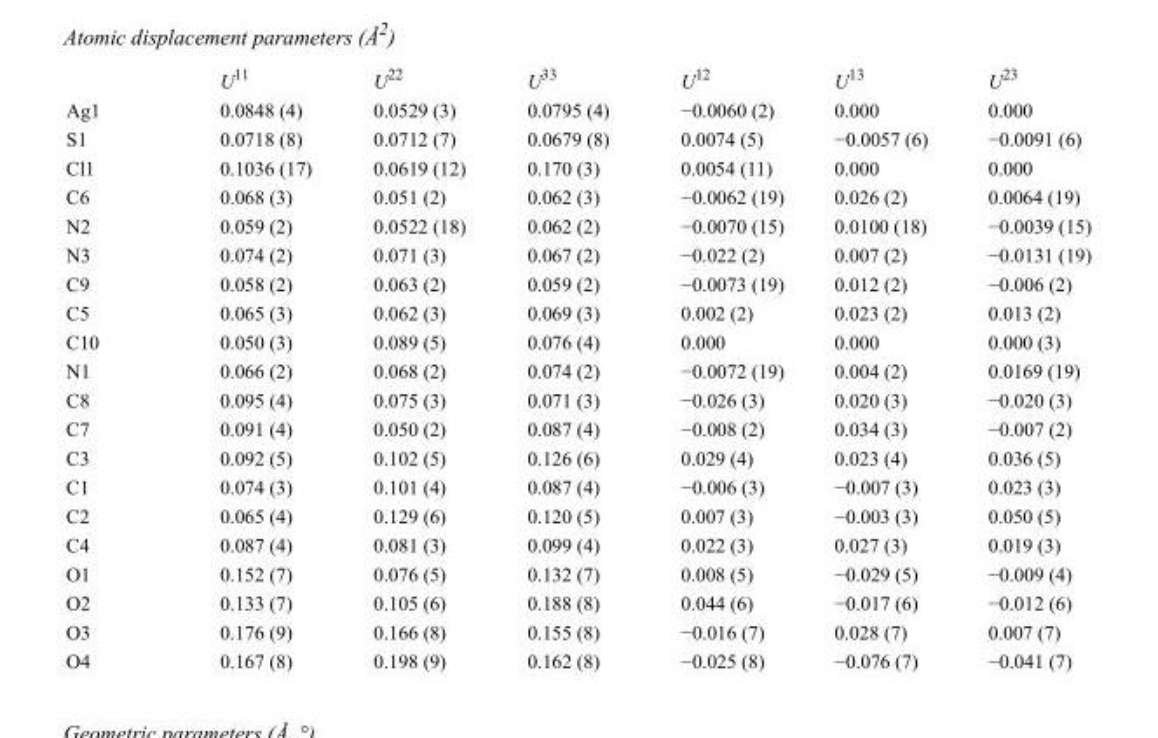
<table><thead><tr><td></td><td>U<sup>11</sup></td><td>U<sup>22</sup></td><td>U<sup>33</sup></td><td>U<sup>12</sup></td><td>U<sup>13</sup></td><td>U<sup>23</sup></td></tr></thead><tbody><tr><td>Ag1</td><td>0.0848 (4)</td><td>0.0529 (3)</td><td>0.0795 (4)</td><td>−0.0060 (2)</td><td>0.000</td><td>0.000</td></tr><tr><td>S1</td><td>0.0718 (8)</td><td>0.0712 (7)</td><td>0.0679 (8)</td><td>0.0074 (5)</td><td>−0.0057 (6)</td><td>−0.0091 (6)</td></tr><tr><td>Cl1</td><td>0.1036 (17)</td><td>0.0619 (12)</td><td>0.170 (3)</td><td>0.0054 (11)</td><td>0.000</td><td>0.000</td></tr><tr><td>C6</td><td>0.068 (3)</td><td>0.051 (2)</td><td>0.062 (3)</td><td>−0.0062 (19)</td><td>0.026 (2)</td><td>0.0064 (19)</td></tr><tr><td>N2</td><td>0.059 (2)</td><td>0.0522 (18)</td><td>0.062 (2)</td><td>−0.0070 (15)</td><td>0.0100 (18)</td><td>−0.0039 (15)</td></tr><tr><td>N3</td><td>0.074 (2)</td><td>0.071 (3)</td><td>0.067 (2)</td><td>−0.022 (2)</td><td>0.007 (2)</td><td>−0.0131 (19)</td></tr><tr><td>C9</td><td>0.058 (2)</td><td>0.063 (2)</td><td>0.059 (2)</td><td>−0.0073 (19)</td><td>0.012 (2)</td><td>−0.006 (2)</td></tr><tr><td>C5</td><td>0.065 (3)</td><td>0.062 (3)</td><td>0.069 (3)</td><td>0.002 (2)</td><td>0.023 (2)</td><td>0.013 (2)</td></tr><tr><td>C10</td><td>0.050 (3)</td><td>0.089 (5)</td><td>0.076 (4)</td><td>0.000</td><td>0.000</td><td>0.000 (3)</td></tr><tr><td>N1</td><td>0.066 (2)</td><td>0.068 (2)</td><td>0.074 (2)</td><td>−0.0072 (19)</td><td>0.004 (2)</td><td>0.0169 (19)</td></tr><tr><td>C8</td><td>0.095 (4)</td><td>0.075 (3)</td><td>0.071 (3)</td><td>−0.026 (3)</td><td>0.020 (3)</td><td>−0.020 (3)</td></tr><tr><td>C7</td><td>0.091 (4)</td><td>0.050 (2)</td><td>0.087 (4)</td><td>−0.008 (2)</td><td>0.034 (3)</td><td>−0.007 (2)</td></tr><tr><td>C3</td><td>0.092 (5)</td><td>0.102 (5)</td><td>0.126 (6)</td><td>0.029 (4)</td><td>0.023 (4)</td><td>0.036 (5)</td></tr><tr><td>C1</td><td>0.074 (3)</td><td>0.101 (4)</td><td>0.087 (4)</td><td>−0.006 (3)</td><td>−0.007 (3)</td><td>0.023 (3)</td></tr><tr><td>C2</td><td>0.065 (4)</td><td>0.129 (6)</td><td>0.120 (5)</td><td>0.007 (3)</td><td>−0.003 (3)</td><td>0.050 (5)</td></tr><tr><td>C4</td><td>0.087 (4)</td><td>0.081 (3)</td><td>0.099 (4)</td><td>0.022 (3)</td><td>0.027 (3)</td><td>0.019 (3)</td></tr><tr><td>O1</td><td>0.152 (7)</td><td>0.076 (5)</td><td>0.132 (7)</td><td>0.008 (5)</td><td>−0.029 (5)</td><td>−0.009 (4)</td></tr><tr><td>O2</td><td>0.133 (7)</td><td>0.105 (6)</td><td>0.188 (8)</td><td>0.044 (6)</td><td>−0.017 (6)</td><td>−0.012 (6)</td></tr><tr><td>O3</td><td>0.176 (9)</td><td>0.166 (8)</td><td>0.155 (8)</td><td>−0.016 (7)</td><td>0.028 (7)</td><td>0.007 (7)</td></tr><tr><td>O4</td><td>0.167 (8)</td><td>0.198 (9)</td><td>0.162 (8)</td><td>−0.025 (8)</td><td>−0.076 (7)</td><td>−0.041 (7)</td></tr></tbody></table>